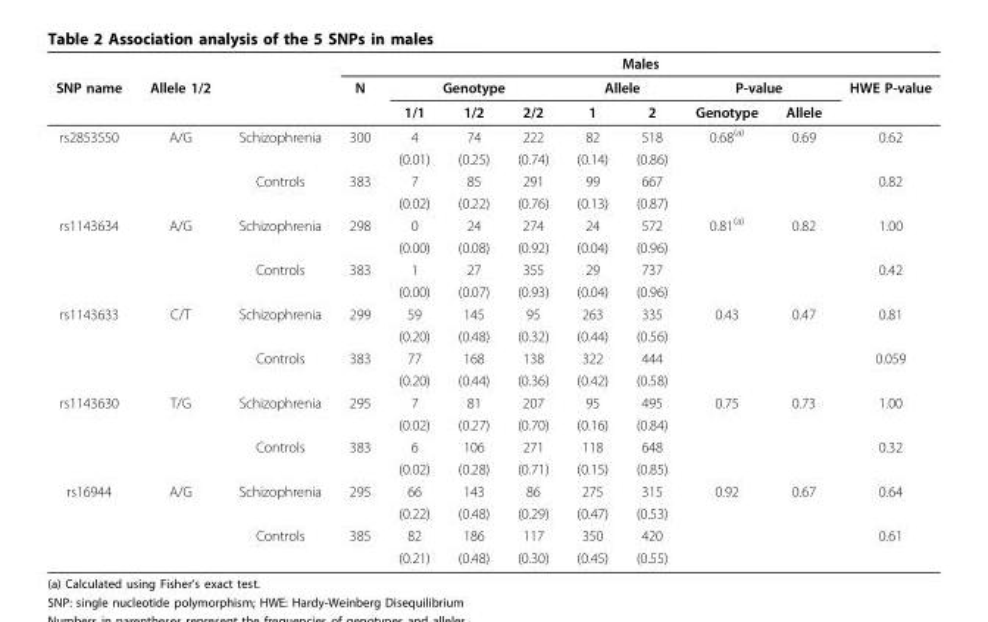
<table><thead><tr><td rowspan="3">SNP name</td><td rowspan="3">Allele 1/2</td><td rowspan="3"></td><td colspan="9">Males</td></tr><tr><td rowspan="2">N</td><td colspan="3">Genotype</td><td colspan="2">Allele</td><td colspan="2">P-value</td><td rowspan="2">HWE P-value</td></tr><tr><td>1/1</td><td>1/2</td><td>2/2</td><td>1</td><td>2</td><td>Genotype</td><td>Allele</td></tr></thead><tbody><tr><td rowspan="4">rs2853550</td><td>A/G</td><td>Schizophrenia</td><td>300</td><td>4</td><td>74</td><td>222</td><td>82</td><td>518</td><td>0.68<sup>(a)</sup></td><td>0.69</td><td>0.62</td></tr><tr><td></td><td></td><td></td><td>(0.01)</td><td>(0.25)</td><td>(0.74)</td><td>(0.14)</td><td>(0.86)</td><td></td><td></td><td></td></tr><tr><td></td><td>Controls</td><td>383</td><td>7</td><td>85</td><td>291</td><td>99</td><td>667</td><td></td><td></td><td>0.82</td></tr><tr><td></td><td></td><td></td><td>(0.02)</td><td>(0.22)</td><td>(0.76)</td><td>(0.13)</td><td>(0.87)</td><td></td><td></td><td></td></tr><tr><td rowspan="4">rs1143634</td><td>A/G</td><td>Schizophrenia</td><td>298</td><td>0</td><td>24</td><td>274</td><td>24</td><td>572</td><td>0.81<sup>(a)</sup></td><td>0.82</td><td>1.00</td></tr><tr><td></td><td></td><td></td><td>(0.00)</td><td>(0.08)</td><td>(0.92)</td><td>(0.04)</td><td>(0.96)</td><td></td><td></td><td></td></tr><tr><td></td><td>Controls</td><td>383</td><td>1</td><td>27</td><td>355</td><td>29</td><td>737</td><td></td><td></td><td>0.42</td></tr><tr><td></td><td></td><td></td><td>(0.00)</td><td>(0.07)</td><td>(0.93)</td><td>(0.04)</td><td>(0.96)</td><td></td><td></td><td></td></tr><tr><td rowspan="4">rs1143633</td><td>C/T</td><td>Schizophrenia</td><td>299</td><td>59</td><td>145</td><td>95</td><td>263</td><td>335</td><td>0.43</td><td>0.47</td><td>0.81</td></tr><tr><td></td><td></td><td></td><td>(0.20)</td><td>(0.48)</td><td>(0.32)</td><td>(0.44)</td><td>(0.56)</td><td></td><td></td><td></td></tr><tr><td></td><td>Controls</td><td>383</td><td>77</td><td>168</td><td>138</td><td>322</td><td>444</td><td></td><td></td><td>0.059</td></tr><tr><td></td><td></td><td></td><td>(0.20)</td><td>(0.44)</td><td>(0.36)</td><td>(0.42)</td><td>(0.58)</td><td></td><td></td><td></td></tr><tr><td rowspan="4">rs1143630</td><td>T/G</td><td>Schizophrenia</td><td>295</td><td>7</td><td>81</td><td>207</td><td>95</td><td>495</td><td>0.75</td><td>0.73</td><td>1.00</td></tr><tr><td></td><td></td><td></td><td>(0.02)</td><td>(0.27)</td><td>(0.70)</td><td>(0.16)</td><td>(0.84)</td><td></td><td></td><td></td></tr><tr><td></td><td>Controls</td><td>383</td><td>6</td><td>106</td><td>271</td><td>118</td><td>648</td><td></td><td></td><td>0.32</td></tr><tr><td></td><td></td><td></td><td>(0.02)</td><td>(0.28)</td><td>(0.71)</td><td>(0.15)</td><td>(0.85)</td><td></td><td></td><td></td></tr><tr><td rowspan="4">rs16944</td><td>A/G</td><td>Schizophrenia</td><td>295</td><td>66</td><td>143</td><td>86</td><td>275</td><td>315</td><td>0.92</td><td>0.67</td><td>0.64</td></tr><tr><td></td><td></td><td></td><td>(0.22)</td><td>(0.48)</td><td>(0.29)</td><td>(0.47)</td><td>(0.53)</td><td></td><td></td><td></td></tr><tr><td></td><td>Controls</td><td>385</td><td>82</td><td>186</td><td>117</td><td>350</td><td>420</td><td></td><td></td><td>0.61</td></tr><tr><td></td><td></td><td></td><td>(0.21)</td><td>(0.48)</td><td>(0.30)</td><td>(0.45)</td><td>(0.55)</td><td></td><td></td><td></td></tr></tbody></table>